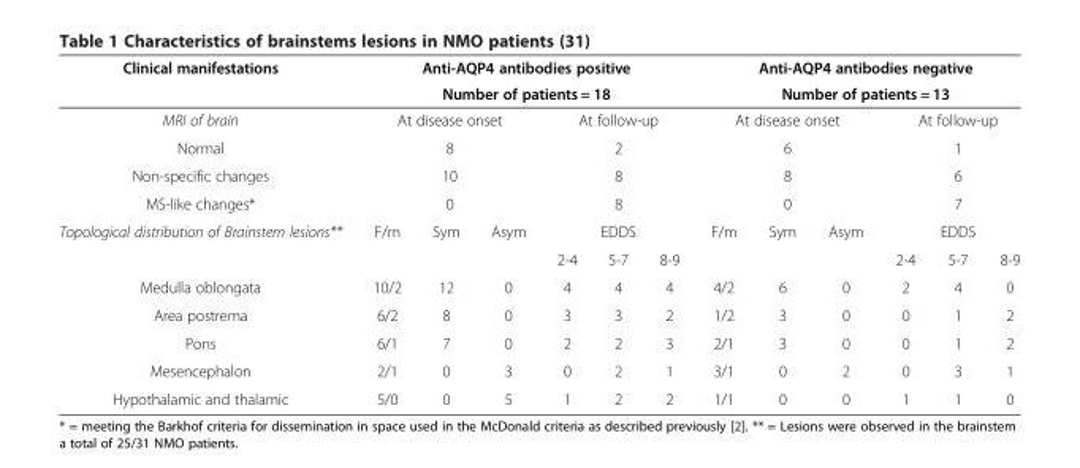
<table><thead><tr><td rowspan="2">Clinical manifestations</td><td rowspan="2" colspan="6">Anti-AQP4 antibodies positive Number of patients = 18</td><td rowspan="2" colspan="6">Anti-AQP4 antibodies negative Number of patients = 13</td></tr><tr></tr></thead><tbody><tr><td>MRI of brain</td><td colspan="3">At disease onset</td><td colspan="3">At follow-up</td><td colspan="3">At disease onset</td><td colspan="3">At follow-up</td></tr><tr><td>Normal</td><td colspan="3">8</td><td colspan="3">2</td><td colspan="3">6</td><td colspan="3">1</td></tr><tr><td>Non-specific changes</td><td colspan="3">10</td><td colspan="3">8</td><td colspan="3">8</td><td colspan="3">6</td></tr><tr><td>MS-like changes*</td><td colspan="3">0</td><td colspan="3">8</td><td colspan="3">0</td><td colspan="3">7</td></tr><tr><td rowspan="2">Topological distribution of Brainstem lesions**</td><td rowspan="2">F/m</td><td rowspan="2">Sym</td><td rowspan="2">Asym</td><td colspan="3">EDDS</td><td rowspan="2">F/m</td><td rowspan="2">Sym</td><td rowspan="2">Asym</td><td colspan="3">EDDS</td></tr><tr><td>2-4</td><td>5-7</td><td>8-9</td><td>2-4</td><td>5-7</td><td>8-9</td></tr><tr><td>Medulla oblongata</td><td>10/2</td><td>12</td><td>0</td><td>4</td><td>4</td><td>4</td><td>4/2</td><td>6</td><td>0</td><td>2</td><td>4</td><td>0</td></tr><tr><td>Area postrema</td><td>6/2</td><td>8</td><td>0</td><td>3</td><td>3</td><td>2</td><td>1/2</td><td>3</td><td>0</td><td>0</td><td>1</td><td>2</td></tr><tr><td>Pons</td><td>6/1</td><td>7</td><td>0</td><td>2</td><td>2</td><td>3</td><td>2/1</td><td>3</td><td>0</td><td>0</td><td>1</td><td>2</td></tr><tr><td>Mesencephalon</td><td>2/1</td><td>0</td><td>3</td><td>0</td><td>2</td><td>1</td><td>3/1</td><td>0</td><td>2</td><td>0</td><td>3</td><td>1</td></tr><tr><td>Hypothalamic and thalamic</td><td>5/0</td><td>0</td><td>5</td><td>1</td><td>2</td><td>2</td><td>1/1</td><td>0</td><td>0</td><td>1</td><td>1</td><td>0</td></tr></tbody></table>